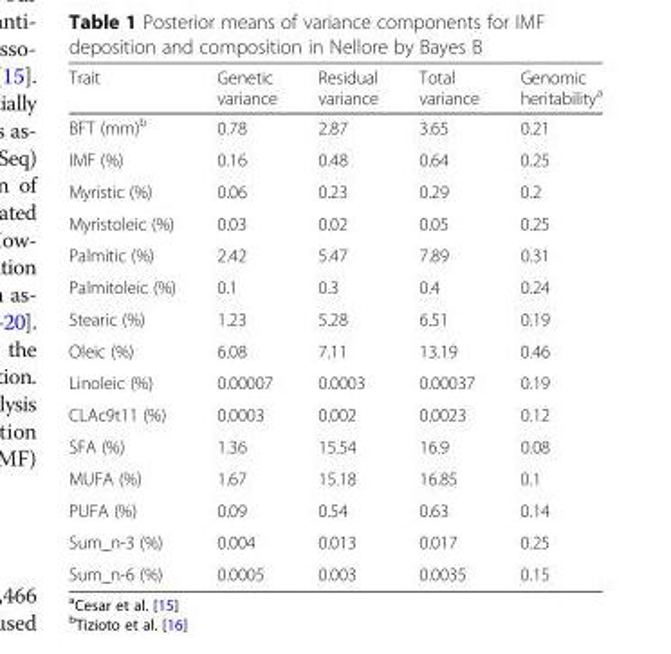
<table><thead><tr><td>Trait</td><td>Genetic variance</td><td>Residual variance</td><td>Total variance</td><td>Genomic heritability<sup>a</sup></td></tr></thead><tbody><tr><td>BFT (mm)<sup>b</sup></td><td>0.78</td><td>2.87</td><td>3.65</td><td>0.21</td></tr><tr><td>IMF (%)</td><td>0.16</td><td>0.48</td><td>0.64</td><td>0.25</td></tr><tr><td>Myristic (%)</td><td>0.06</td><td>0.23</td><td>0.29</td><td>0.2</td></tr><tr><td>Myristoleic (%)</td><td>0.03</td><td>0.02</td><td>0.05</td><td>0.25</td></tr><tr><td>Palmitic (%)</td><td>2.42</td><td>5.47</td><td>7.89</td><td>0.31</td></tr><tr><td>Palmitoleic (%)</td><td>0.1</td><td>0.3</td><td>0.4</td><td>0.24</td></tr><tr><td>Stearic (%)</td><td>1.23</td><td>5.28</td><td>6.51</td><td>0.19</td></tr><tr><td>Oleic (%)</td><td>6.08</td><td>7.11</td><td>13.19</td><td>0.46</td></tr><tr><td>Linoleic (%)</td><td>0.00007</td><td>0.0003</td><td>0.00037</td><td>0.19</td></tr><tr><td>CLAc9t11 (%)</td><td>0.0003</td><td>0.002</td><td>0.0023</td><td>0.12</td></tr><tr><td>SFA (%)</td><td>1.36</td><td>15.54</td><td>16.9</td><td>0.08</td></tr><tr><td>MUFA (%)</td><td>1.67</td><td>15.18</td><td>16.85</td><td>0.1</td></tr><tr><td>PUFA (%)</td><td>0.09</td><td>0.54</td><td>0.63</td><td>0.14</td></tr><tr><td>Sum_n-3 (%)</td><td>0.004</td><td>0.013</td><td>0.017</td><td>0.25</td></tr><tr><td>Sum_n-6 (%)</td><td>0.0005</td><td>0.003</td><td>0.0035</td><td>0.15</td></tr></tbody></table>